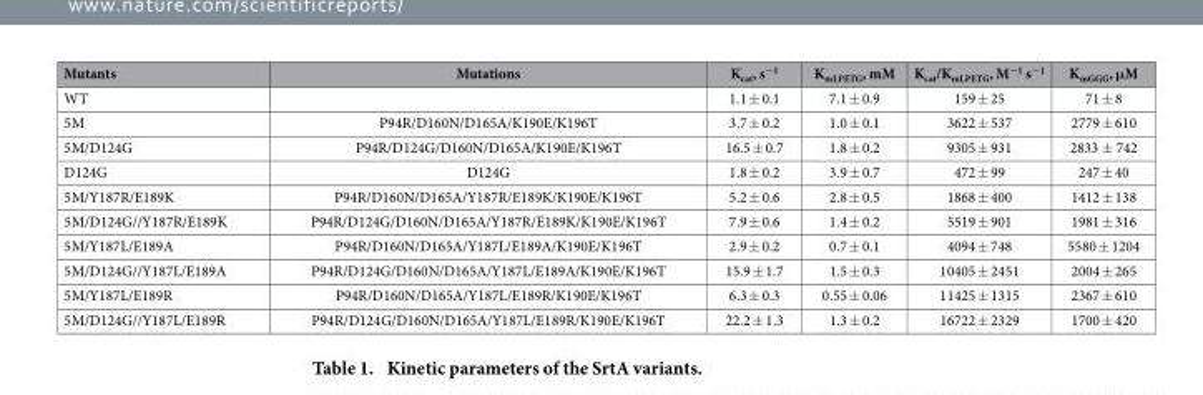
<table><thead><tr><td>Mutants</td><td>Mutations</td><td>K<sub>cat</sub>, s<sup>−1</sup></td><td>K<sub>mLPETG</sub>, mM</td><td>K<sub>cat</sub>/K<sub>mLPETG</sub>, M<sup>−1</sup> s<sup>−1</sup></td><td>K<sub>mGGG</sub>, μM</td></tr></thead><tbody><tr><td>WT</td><td></td><td>1.1 ± 0.1</td><td>7.1 ± 0.9</td><td>159 ± 25</td><td>71 ± 8</td></tr><tr><td>5M</td><td>P94R/D160N/D165A/K190E/K196T</td><td>3.7 ± 0.2</td><td>1.0 ± 0.1</td><td>3622 ± 537</td><td>2779 ± 610</td></tr><tr><td>5M/D124G</td><td>P94R/D124G/D160N/D165A/K190E/K196T</td><td>16.5 ± 0.7</td><td>1.8 ± 0.2</td><td>9305 ± 931</td><td>2833 ± 742</td></tr><tr><td>D124G</td><td>D124G</td><td>1.8 ± 0.2</td><td>3.9 ± 0.7</td><td>472 ± 99</td><td>247 ± 40</td></tr><tr><td>5M/Y187R/E189K</td><td>P94R/D160N/D165A/Y187R/E189K/K190E/K196T</td><td>5.2 ± 0.6</td><td>2.8 ± 0.5</td><td>1868 ± 400</td><td>1412 ± 138</td></tr><tr><td>5M/D124G//Y187R/E189K</td><td>P94R/D124G/D160N/D165A/Y187R/E189K/K190E/K196T</td><td>7.9 ± 0.6</td><td>1.4 ± 0.2</td><td>5519 ± 901</td><td>1981 ± 316</td></tr><tr><td>5M/Y187L/E189A</td><td>P94R/D160N/D165A/Y187L/E189A/K190E/K196T</td><td>2.9 ± 0.2</td><td>0.7 ± 0.1</td><td>4094 ± 748</td><td>5580 ± 1204</td></tr><tr><td>5M/D124G//Y187L/E189A</td><td>P94R/D124G/D160N/D165A/Y187L/E189A/K190E/K196T</td><td>15.9 ± 1.7</td><td>1.5 ± 0.3</td><td>10405 ± 2451</td><td>2004 ± 265</td></tr><tr><td>5M/Y187L/E189R</td><td>P94R/D160N/D165A/Y187L/E189R/K190E/K196T</td><td>6.3 ± 0.3</td><td>0.55 ± 0.06</td><td>11425 ± 1315</td><td>2367 ± 610</td></tr><tr><td>5M/D124G//Y187L/E189R</td><td>P94R/D124G/D160N/D165A/Y187L/E189R/K190E/K196T</td><td>22.2 ± 1.3</td><td>1.3 ± 0.2</td><td>16722 ± 2329</td><td>1700 ± 420</td></tr></tbody></table>